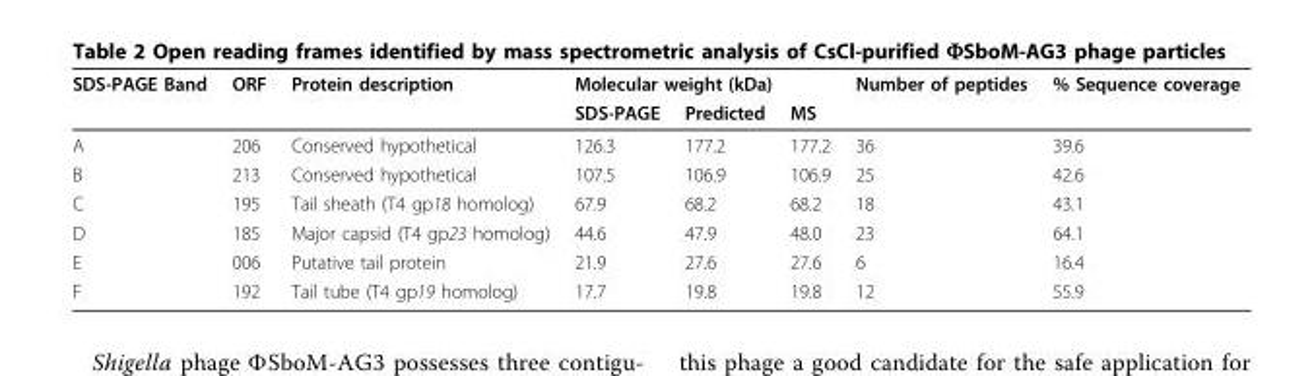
<table><thead><tr><td rowspan="2">SDS-PAGE Band</td><td rowspan="2">ORF</td><td rowspan="2">Protein description</td><td colspan="3">Molecular weight (kDa)</td><td rowspan="2">Number of peptides</td><td rowspan="2">% Sequence coverage</td></tr><tr><td>SDS-PAGE</td><td>Predicted</td><td>MS</td></tr></thead><tbody><tr><td>A</td><td>206</td><td>Conserved hypothetical</td><td>126.3</td><td>177.2</td><td>177.2</td><td>36</td><td>39.6</td></tr><tr><td>B</td><td>213</td><td>Conserved hypothetical</td><td>107.5</td><td>106.9</td><td>106.9</td><td>25</td><td>42.6</td></tr><tr><td>C</td><td>195</td><td>Tail sheath (T4 gp18 homolog)</td><td>67.9</td><td>68.2</td><td>68.2</td><td>18</td><td>43.1</td></tr><tr><td>D</td><td>185</td><td>Major capsid (T4 gp23 homolog)</td><td>44.6</td><td>47.9</td><td>48.0</td><td>23</td><td>64.1</td></tr><tr><td>E</td><td>006</td><td>Putative tail protein</td><td>21.9</td><td>27.6</td><td>27.6</td><td>6</td><td>16.4</td></tr><tr><td>F</td><td>192</td><td>Tail tube (T4 gp19 homolog)</td><td>17.7</td><td>19.8</td><td>19.8</td><td>12</td><td>55.9</td></tr></tbody></table>